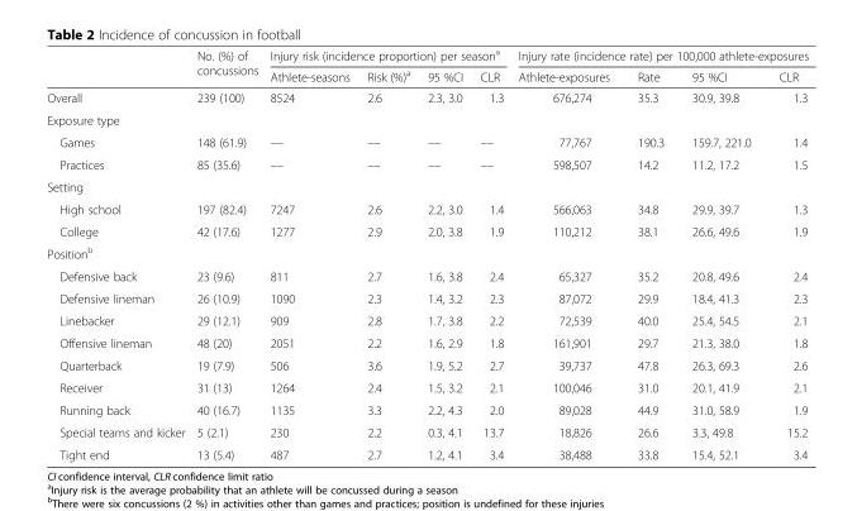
<table><thead><tr><td rowspan="2"></td><td rowspan="2">No. (%) of concussions</td><td colspan="4">Injury risk (incidence proportion) per season<sup>a</sup></td><td colspan="4">Injury rate (incidence rate) per 100,000 athlete-exposures</td></tr><tr><td>Athlete-seasons</td><td>Risk (%)<sup>a</sup></td><td>95 %CI</td><td>CLR</td><td>Athlete-exposures</td><td>Rate</td><td>95 %CI</td><td>CLR</td></tr></thead><tbody><tr><td>Overall</td><td>239 (100)</td><td>8524</td><td>2.6</td><td>2.3, 3.0</td><td>1.3</td><td>676,274</td><td>35.3</td><td>30.9, 39.8</td><td>1.3</td></tr><tr><td colspan="10">Exposure type</td></tr><tr><td>Games</td><td>148 (61.9)</td><td>––</td><td>––</td><td>––</td><td>––</td><td>77,767</td><td>190.3</td><td>159.7, 221.0</td><td>1.4</td></tr><tr><td>Practices</td><td>85 (35.6)</td><td>––</td><td>––</td><td>––</td><td>––</td><td>598,507</td><td>14.2</td><td>11.2, 17.2</td><td>1.5</td></tr><tr><td colspan="10">Setting</td></tr><tr><td>High school</td><td>197 (82.4)</td><td>7247</td><td>2.6</td><td>2.2, 3.0</td><td>1.4</td><td>566,063</td><td>34.8</td><td>29.9, 39.7</td><td>1.3</td></tr><tr><td>College</td><td>42 (17.6)</td><td>1277</td><td>2.9</td><td>2.0, 3.8</td><td>1.9</td><td>110,212</td><td>38.1</td><td>26.6, 49.6</td><td>1.9</td></tr><tr><td colspan="10">Position<sup>b</sup></td></tr><tr><td>Defensive back</td><td>23 (9.6)</td><td>811</td><td>2.7</td><td>1.6, 3.8</td><td>2.4</td><td>65,327</td><td>35.2</td><td>20.8, 49.6</td><td>2.4</td></tr><tr><td>Defensive lineman</td><td>26 (10.9)</td><td>1090</td><td>2.3</td><td>1.4, 3.2</td><td>2.3</td><td>87,072</td><td>29.9</td><td>18.4, 41.3</td><td>2.3</td></tr><tr><td>Linebacker</td><td>29 (12.1)</td><td>909</td><td>2.8</td><td>1.7, 3.8</td><td>2.2</td><td>72,539</td><td>40.0</td><td>25.4, 54.5</td><td>2.1</td></tr><tr><td>Offensive lineman</td><td>48 (20)</td><td>2051</td><td>2.2</td><td>1.6, 2.9</td><td>1.8</td><td>161,901</td><td>29.7</td><td>21.3, 38.0</td><td>1.8</td></tr><tr><td>Quarterback</td><td>19 (7.9)</td><td>506</td><td>3.6</td><td>1.9, 5.2</td><td>2.7</td><td>39,737</td><td>47.8</td><td>26.3, 69.3</td><td>2.6</td></tr><tr><td>Receiver</td><td>31 (13)</td><td>1264</td><td>2.4</td><td>1.5, 3.2</td><td>2.1</td><td>100,046</td><td>31.0</td><td>20.1, 41.9</td><td>2.1</td></tr><tr><td>Running back</td><td>40 (16.7)</td><td>1135</td><td>3.3</td><td>2.2, 4.3</td><td>2.0</td><td>89,028</td><td>44.9</td><td>31.0, 58.9</td><td>1.9</td></tr><tr><td>Special teams and kicker</td><td>5 (2.1)</td><td>230</td><td>2.2</td><td>0.3, 4.1</td><td>13.7</td><td>18,826</td><td>26.6</td><td>3.3, 49.8</td><td>15.2</td></tr><tr><td>Tight end</td><td>13 (5.4)</td><td>487</td><td>2.7</td><td>1.2, 4.1</td><td>3.4</td><td>38,488</td><td>33.8</td><td>15.4, 52.1</td><td>3.4</td></tr></tbody></table>